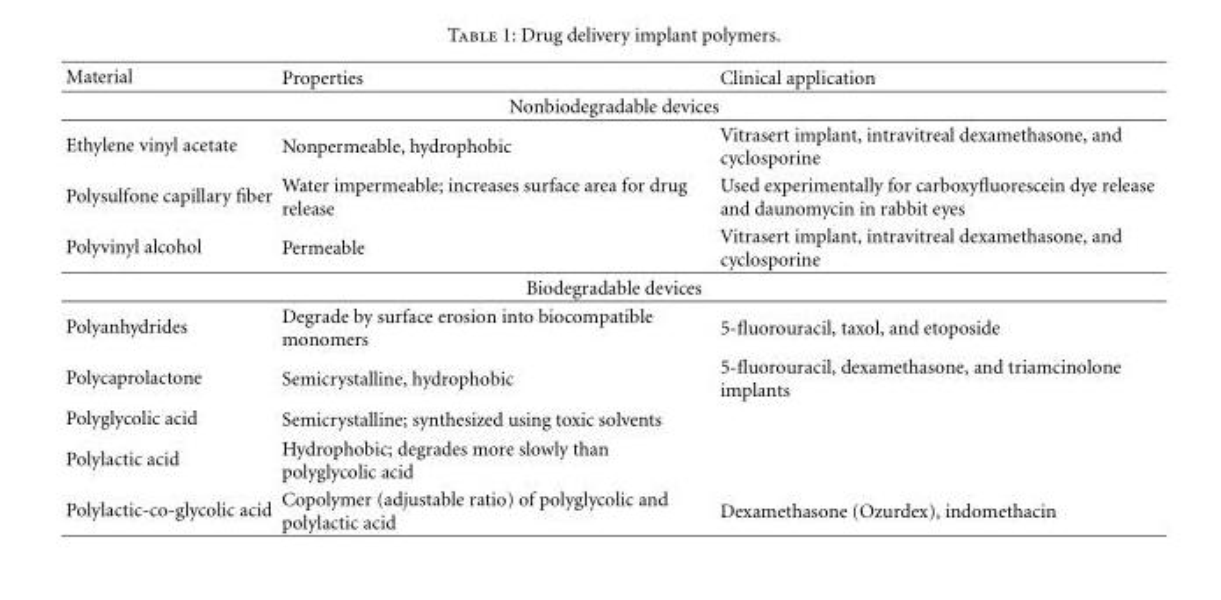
<table><thead><tr><td>Material</td><td>Properties</td><td>Clinical application</td></tr></thead><tbody><tr><td colspan="3">Nonbiodegradable devices</td></tr><tr><td>Ethylene vinyl acetate</td><td>Nonpermeable, hydrophobic</td><td>Vitrasert implant, intravitreal dexamethasone, and cyclosporine</td></tr><tr><td>Polysulfone capillary fiber</td><td>Water impermeable; increases surface area for drug release</td><td>Used experimentally for carboxyfluorescein dye release and daunomycin in rabbit eyes</td></tr><tr><td>Polyvinyl alcohol</td><td>Permeable</td><td>Vitrasert implant, intravitreal dexamethasone, and cyclosporine</td></tr><tr><td colspan="3">Biodegradable devices</td></tr><tr><td>Polyanhydrides</td><td>Degrade by surface erosion into biocompatible monomers</td><td>5-fluorouracil, taxol, and etoposide</td></tr><tr><td>Polycaprolactone</td><td>Semicrystalline, hydrophobic</td><td>5-fluorouracil, dexamethasone, and triamcinolone implants</td></tr><tr><td>Polyglycolic acid</td><td>Semicrystalline; synthesized using toxic solvents</td><td></td></tr><tr><td>Polylactic acid</td><td>Hydrophobic; degrades more slowly than polyglycolic acid</td><td></td></tr><tr><td>Polylactic-co-glycolic acid</td><td>Copolymer (adjustable ratio) of polyglycolic and polylactic acid</td><td>Dexamethasone (Ozurdex), indomethacin</td></tr></tbody></table>